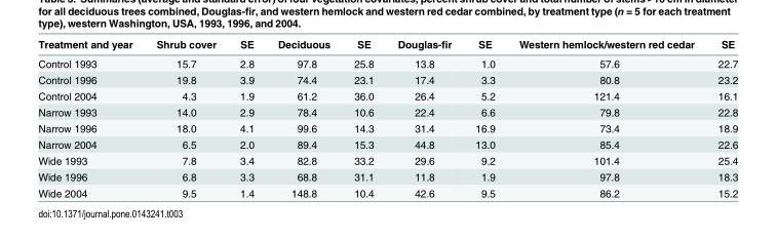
<table><thead><tr><td>Treatment and year</td><td>Shrub cover</td><td>SE</td><td>Deciduous</td><td>SE</td><td>Douglas-fir</td><td>SE</td><td>Western hemlock/western red cedar</td><td>SE</td></tr></thead><tbody><tr><td>Control 1993</td><td>15.7</td><td>2.8</td><td>97.8</td><td>25.8</td><td>13.8</td><td>1.0</td><td>57.6</td><td>22.7</td></tr><tr><td>Control 1996</td><td>19.8</td><td>3.9</td><td>74.4</td><td>23.1</td><td>17.4</td><td>3.3</td><td>80.8</td><td>23.2</td></tr><tr><td>Control 2004</td><td>4.3</td><td>1.9</td><td>61.2</td><td>36.0</td><td>26.4</td><td>5.2</td><td>121.4</td><td>16.1</td></tr><tr><td>Narrow 1993</td><td>14.0</td><td>2.9</td><td>78.4</td><td>10.6</td><td>22.4</td><td>6.6</td><td>79.8</td><td>22.8</td></tr><tr><td>Narrow 1996</td><td>18.0</td><td>4.1</td><td>99.6</td><td>14.3</td><td>31.4</td><td>16.9</td><td>73.4</td><td>18.9</td></tr><tr><td>Narrow 2004</td><td>6.5</td><td>2.0</td><td>89.4</td><td>15.3</td><td>44.8</td><td>13.0</td><td>85.4</td><td>22.6</td></tr><tr><td>Wide 1993</td><td>7.8</td><td>3.4</td><td>82.8</td><td>33.2</td><td>29.6</td><td>9.2</td><td>101.4</td><td>25.4</td></tr><tr><td>Wide 1996</td><td>6.8</td><td>3.3</td><td>68.8</td><td>31.1</td><td>11.8</td><td>1.9</td><td>97.8</td><td>18.3</td></tr><tr><td>Wide 2004</td><td>9.5</td><td>1.4</td><td>148.8</td><td>10.4</td><td>42.6</td><td>9.5</td><td>86.2</td><td>15.2</td></tr></tbody></table>